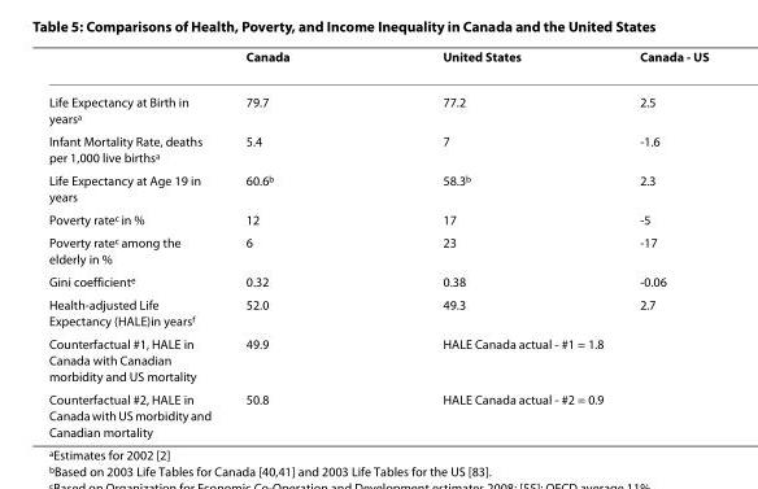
<table><thead><tr><td></td><td>Canada</td><td>United States</td><td>Canada - US</td></tr></thead><tbody><tr><td>Life Expectancy at Birth in years<sup>a</sup></td><td>79.7</td><td>77.2</td><td>2.5</td></tr><tr><td>Infant Mortality Rate, deaths per 1,000 live births<sup>a</sup></td><td>5.4</td><td>7</td><td>-1.6</td></tr><tr><td>Life Expectancy at Age 19 in years</td><td>60.6<sup>b</sup></td><td>58.3<sup>b</sup></td><td>2.3</td></tr><tr><td>Poverty rate<sup>c</sup> in %</td><td>12</td><td>17</td><td>-5</td></tr><tr><td>Poverty rate<sup>c</sup> among the elderly in %</td><td>6</td><td>23</td><td>-17</td></tr><tr><td>Gini coefficient<sup>e</sup></td><td>0.32</td><td>0.38</td><td>-0.06</td></tr><tr><td>Health-adjusted Life Expectancy (HALE)in years<sup>f</sup></td><td>52.0</td><td>49.3</td><td>2.7</td></tr><tr><td>Counterfactual #1, HALE in Canada with Canadian morbidity and US mortality</td><td>49.9</td><td colspan="2">HALE Canada actual - #1 = 1.8</td></tr><tr><td>Counterfactual #2, HALE in Canada with US morbidity and Canadian mortality</td><td>50.8</td><td colspan="2">HALE Canada actual - #2 = 0.9</td></tr></tbody></table>